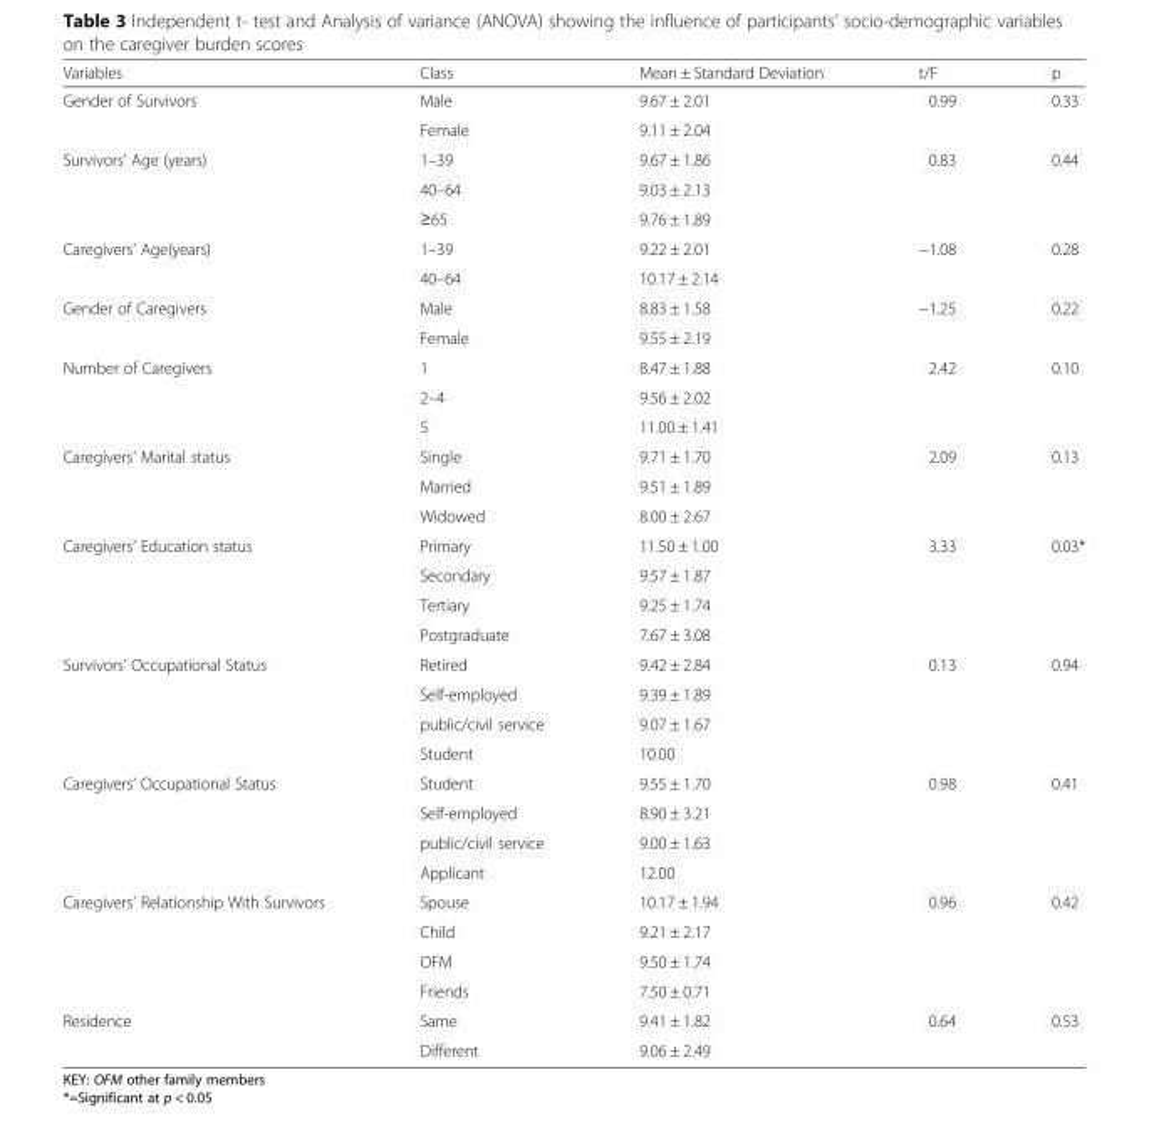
<table><thead><tr><td>Variables</td><td>Class</td><td>Mean ± Standard Deviation</td><td>t/F</td><td>p</td></tr></thead><tbody><tr><td rowspan="2">Gender of Survivors</td><td>Male</td><td>9.67 ± 2.01</td><td>0.99</td><td>0.33</td></tr><tr><td>Female</td><td>9.11 ± 2.04</td><td></td><td></td></tr><tr><td rowspan="3">Survivors’ Age (years)</td><td>1–39</td><td>9.67 ± 1.86</td><td>0.83</td><td>0.44</td></tr><tr><td>40–64</td><td>9.03 ± 2.13</td><td></td><td></td></tr><tr><td>≥65</td><td>9.76 ± 1.89</td><td></td><td></td></tr><tr><td rowspan="2">Caregivers’ Age(years)</td><td>1–39</td><td>9.22 ± 2.01</td><td>−1.08</td><td>0.28</td></tr><tr><td>40–64</td><td>10.17 ± 2.14</td><td></td><td></td></tr><tr><td rowspan="2">Gender of Caregivers</td><td>Male</td><td>8.83 ± 1.58</td><td>−1.25</td><td>0.22</td></tr><tr><td>Female</td><td>9.55 ± 2.19</td><td></td><td></td></tr><tr><td rowspan="3">Number of Caregivers</td><td>1</td><td>8.47 ± 1.88</td><td>2.42</td><td>0.10</td></tr><tr><td>2–4</td><td>9.56 ± 2.02</td><td></td><td></td></tr><tr><td>5</td><td>11.00 ± 1.41</td><td></td><td></td></tr><tr><td rowspan="3">Caregivers’ Marital status</td><td>Single</td><td>9.71 ± 1.70</td><td>2.09</td><td>0.13</td></tr><tr><td>Married</td><td>9.51 ± 1.89</td><td></td><td></td></tr><tr><td>Widowed</td><td>8.00 ± 2.67</td><td></td><td></td></tr><tr><td rowspan="4">Caregivers’ Education status</td><td>Primary</td><td>11.50 ± 1.00</td><td>3.33</td><td>0.03*</td></tr><tr><td>Secondary</td><td>9.57 ± 1.87</td><td></td><td></td></tr><tr><td>Tertiary</td><td>9.25 ± 1.74</td><td></td><td></td></tr><tr><td>Postgraduate</td><td>7.67 ± 3.08</td><td></td><td></td></tr><tr><td rowspan="4">Survivors’ Occupational Status</td><td>Retired</td><td>9.42 ± 2.84</td><td>0.13</td><td>0.94</td></tr><tr><td>Self-employed</td><td>9.39 ± 1.89</td><td></td><td></td></tr><tr><td>public/civil service</td><td>9.07 ± 1.67</td><td></td><td></td></tr><tr><td>Student</td><td>10.00</td><td></td><td></td></tr><tr><td rowspan="4">Caregivers’ Occupational Status</td><td>Student</td><td>9.55 ± 1.70</td><td>0.98</td><td>0.41</td></tr><tr><td>Self-employed</td><td>8.90 ± 3.21</td><td></td><td></td></tr><tr><td>public/civil service</td><td>9.00 ± 1.63</td><td></td><td></td></tr><tr><td>Applicant</td><td>12.00</td><td></td><td></td></tr><tr><td rowspan="4">Caregivers’ Relationship With Survivors</td><td>Spouse</td><td>10.17 ± 1.94</td><td>0.96</td><td>0.42</td></tr><tr><td>Child</td><td>9.21 ± 2.17</td><td></td><td></td></tr><tr><td>OFM</td><td>9.50 ± 1.74</td><td></td><td></td></tr><tr><td>Friends</td><td>7.50 ± 0.71</td><td></td><td></td></tr><tr><td rowspan="2">Residence</td><td>Same</td><td>9.41 ± 1.82</td><td>0.64</td><td>0.53</td></tr><tr><td>Different</td><td>9.06 ± 2.49</td><td></td><td></td></tr></tbody></table>